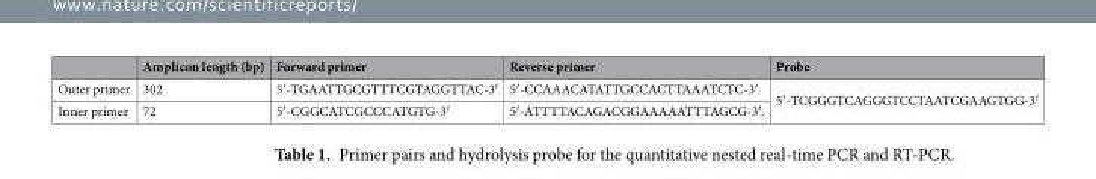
<table><thead><tr><td></td><td>Amplicon length (bp)</td><td>Forward primer</td><td>Reverse primer</td><td>Probe</td></tr></thead><tbody><tr><td>Outer primer</td><td>302</td><td>5′-TGAATTGCGTTTCGTAGGTTAC-3′</td><td>5′-CCAAACATATTGCCACTTAAATCTC-3′</td><td rowspan="2">5′-TCGGGTCAGGGTCCTAATCGAAGTGG-3′</td></tr><tr><td>Inner primer</td><td>72</td><td>5′-CGGCATCGCCCATGTG-3′</td><td>5′-ATTTTACAGACGGAAAAATTTAGCG-3′.</td></tr></tbody></table>